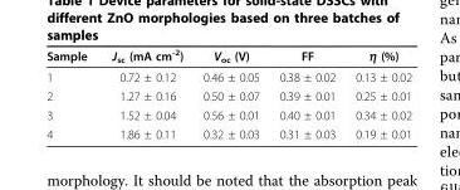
<table><thead><tr><td>Sample</td><td>J<sub>sc</sub> (mA cm<sup>-2</sup>)</td><td>V<sub>oc</sub> (V)</td><td>FF</td><td>η (%)</td></tr></thead><tbody><tr><td>1</td><td>0.72 ± 0.12</td><td>0.46 ± 0.05</td><td>0.38 ± 0.02</td><td>0.13 ± 0.02</td></tr><tr><td>2</td><td>1.27 ± 0.16</td><td>0.50 ± 0.07</td><td>0.39 ± 0.01</td><td>0.25 ± 0.01</td></tr><tr><td>3</td><td>1.52 ± 0.04</td><td>0.56 ± 0.01</td><td>0.40 ± 0.01</td><td>0.34 ± 0.02</td></tr><tr><td>4</td><td>1.86 ± 0.11</td><td>0.32 ± 0.03</td><td>0.31 ± 0.03</td><td>0.19 ± 0.01</td></tr></tbody></table>